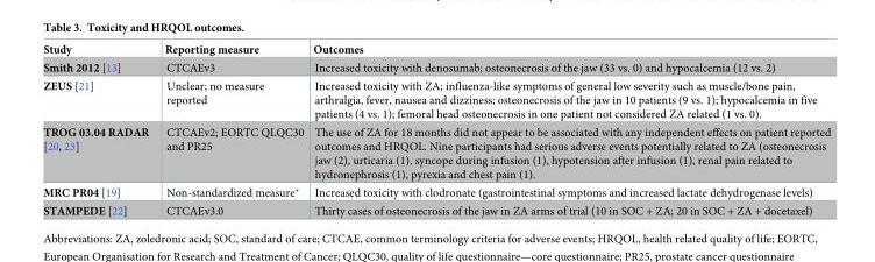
<table><thead><tr><td>Study</td><td>Reporting measure</td><td>Outcomes</td></tr></thead><tbody><tr><td>Smith 2012 [13]</td><td>CTCAEv3</td><td>Increased toxicity with denosumab; osteonecrosis of the jaw (33 vs. 0) and hypocalcemia (12 vs. 2)</td></tr><tr><td>ZEUS [21]</td><td>Unclear; no measure reported</td><td>Increased toxicity with ZA; influenza-like symptoms of general low severity such as muscle/bone pain, arthralgia, fever, nausea and dizziness; osteonecrosis of the jaw in 10 patients (9 vs. 1); hypocalcemia in five patients (4 vs. 1); femoral head osteonecrosis in one patient not considered ZA related (1 vs. 0).</td></tr><tr><td>TROG 03.04 RADAR [20, 23]</td><td>CTCAEv2; EORTC QLQC30 and PR25</td><td>The use of ZA for 18 months did not appear to be associated with any independent effects on patient reported outcomes and HRQOL. Nine participants had serious adverse events potentially related to ZA (osteonecrosis jaw (2), urticaria (1), syncope during infusion (1), hypotension after infusion (1), renal pain related to hydronephrosis (1), pyrexia and chest pain (1).</td></tr><tr><td>MRC PR04 [19]</td><td>Non-standardized measure*</td><td>Increased toxicity with clodronate (gastrointestinal symptoms and increased lactate dehydrogenase levels)</td></tr><tr><td>STAMPEDE [22]</td><td>CTCAEv3.0</td><td>Thirty cases of osteonecrosis of the jaw in ZA arms of trial (10 in SOC + ZA; 20 in SOC + ZA + docetaxel)</td></tr></tbody></table>